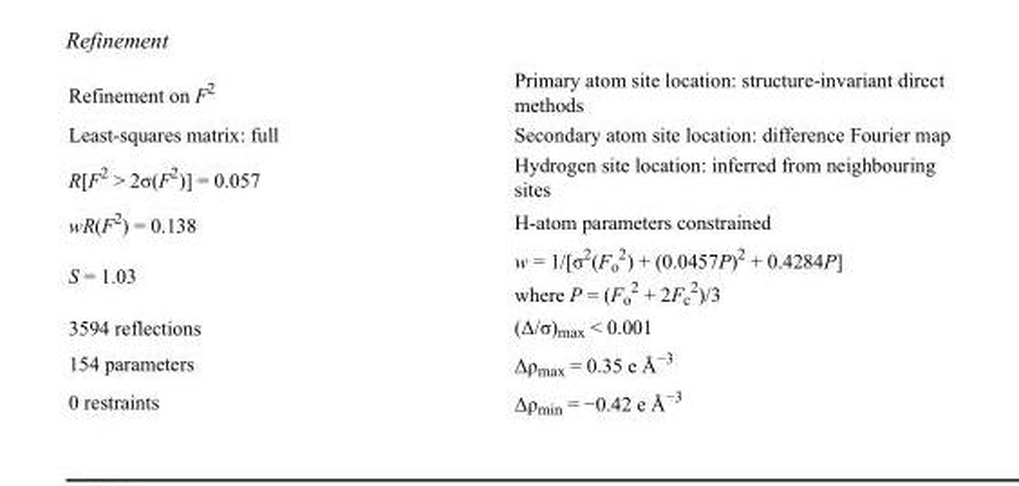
<table><tbody><tr><td>Refinement on F<sup>2</sup></td><td>Primary atom site location: structure-invariant direct methods</td></tr><tr><td>Least-squares matrix: full</td><td>Secondary atom site location: difference Fourier map</td></tr><tr><td>R[F<sup>2</sup> &gt; 2σ(F<sup>2</sup>)] = 0.057</td><td>Hydrogen site location: inferred from neighbouring sites</td></tr><tr><td>wR(F<sup>2</sup>) = 0.138</td><td>H-atom parameters constrained</td></tr><tr><td>S = 1.03</td><td>w = 1/[σ<sup>2</sup>(F<sub>o</sub> <sup>2</sup>) + (0.0457P)<sup>2</sup> + 0.4284P] where P = (F<sub>o</sub> <sup>2</sup> + 2F<sub>c</sub> <sup>2</sup>)/3</td></tr><tr><td>3594 reflections</td><td>(Δ/σ)<sub>max</sub> &lt; 0.001</td></tr><tr><td>154 parameters</td><td>Δρ<sub>max</sub> = 0.35 e Å<sup>−3</sup></td></tr><tr><td>0 restraints</td><td>Δρ<sub>min</sub> = −0.42 e Å<sup>−3</sup></td></tr></tbody></table>